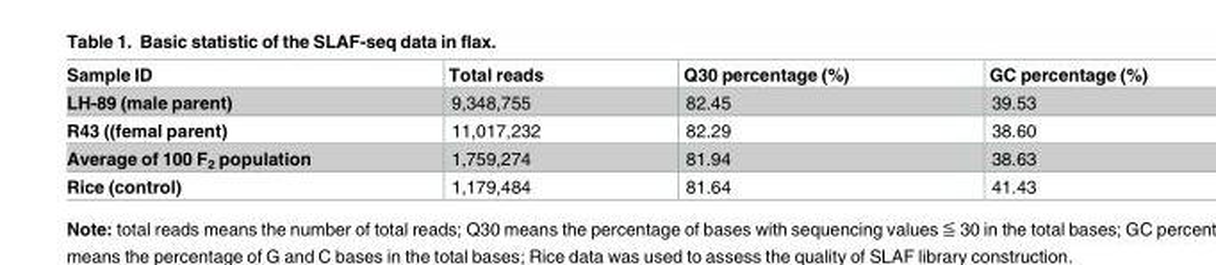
<table><thead><tr><td>Sample ID</td><td>Total reads</td><td>Q30 percentage (%)</td><td>GC percentage (%)</td></tr></thead><tbody><tr><td>LH-89 (male parent)</td><td>9,348,755</td><td>82.45</td><td>39.53</td></tr><tr><td>R43 ((femal parent)</td><td>11,017,232</td><td>82.29</td><td>38.60</td></tr><tr><td>Average of 100 F<sub>2</sub> population</td><td>1,759,274</td><td>81.94</td><td>38.63</td></tr><tr><td>Rice (control)</td><td>1,179,484</td><td>81.64</td><td>41.43</td></tr></tbody></table>